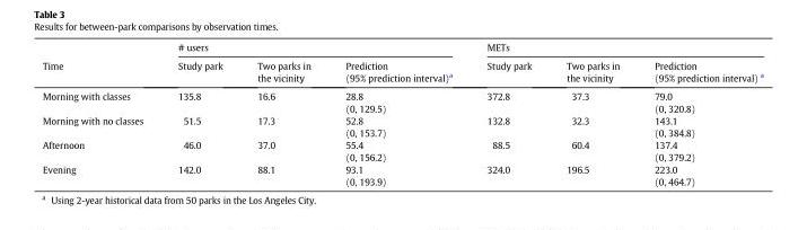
<table><thead><tr><td rowspan="2">Time</td><td colspan="3"># users</td><td colspan="3">METs</td></tr><tr><td>Study park</td><td>Two parks in the vicinity</td><td>Prediction (95% prediction interval)<sup>a</sup></td><td>Study park</td><td>Two parks in the vicinity</td><td>Prediction (95% prediction interval) a</td></tr></thead><tbody><tr><td>Morning with classes</td><td>135.8</td><td>16.6</td><td>28.8 (0, 129.5)</td><td>372.8</td><td>37.3</td><td>79.0 (0, 320.8)</td></tr><tr><td>Morning with no classes</td><td>51.5</td><td>17.3</td><td>52.8 (0, 153.7)</td><td>132.8</td><td>32.3</td><td>143.1 (0, 384.8)</td></tr><tr><td>Afternoon</td><td>46.0</td><td>37.0</td><td>55.4 (0, 156.2)</td><td>88.5</td><td>60.4</td><td>137.4 (0, 379.2)</td></tr><tr><td>Evening</td><td>142.0</td><td>88.1</td><td>93.1 (0, 193.9)</td><td>324.0</td><td>196.5</td><td>223.0 (0, 464.7)</td></tr></tbody></table>